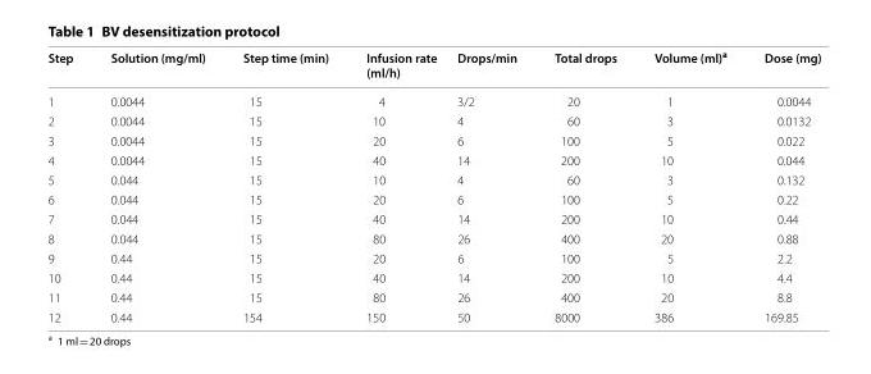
<table><thead><tr><td>Step</td><td>Solution (mg/ml)</td><td>Step time (min)</td><td>Infusion rate (ml/h)</td><td>Drops/min</td><td>Total drops</td><td>Volume (ml)<sup>a</sup></td><td>Dose (mg)</td></tr></thead><tbody><tr><td>1</td><td>0.0044</td><td>15</td><td>4</td><td>3/2</td><td>20</td><td>1</td><td>0.0044</td></tr><tr><td>2</td><td>0.0044</td><td>15</td><td>10</td><td>4</td><td>60</td><td>3</td><td>0.0132</td></tr><tr><td>3</td><td>0.0044</td><td>15</td><td>20</td><td>6</td><td>100</td><td>5</td><td>0.022</td></tr><tr><td>4</td><td>0.0044</td><td>15</td><td>40</td><td>14</td><td>200</td><td>10</td><td>0.044</td></tr><tr><td>5</td><td>0.044</td><td>15</td><td>10</td><td>4</td><td>60</td><td>3</td><td>0.132</td></tr><tr><td>6</td><td>0.044</td><td>15</td><td>20</td><td>6</td><td>100</td><td>5</td><td>0.22</td></tr><tr><td>7</td><td>0.044</td><td>15</td><td>40</td><td>14</td><td>200</td><td>10</td><td>0.44</td></tr><tr><td>8</td><td>0.044</td><td>15</td><td>80</td><td>26</td><td>400</td><td>20</td><td>0.88</td></tr><tr><td>9</td><td>0.44</td><td>15</td><td>20</td><td>6</td><td>100</td><td>5</td><td>2.2</td></tr><tr><td>10</td><td>0.44</td><td>15</td><td>40</td><td>14</td><td>200</td><td>10</td><td>4.4</td></tr><tr><td>11</td><td>0.44</td><td>15</td><td>80</td><td>26</td><td>400</td><td>20</td><td>8.8</td></tr><tr><td>12</td><td>0.44</td><td>154</td><td>150</td><td>50</td><td>8000</td><td>386</td><td>169.85</td></tr></tbody></table>